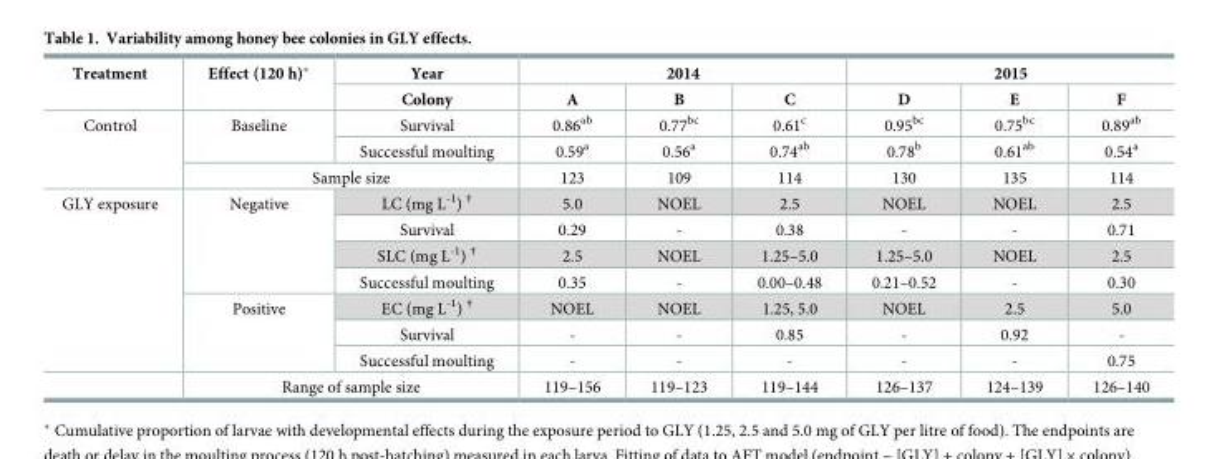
<table><thead><tr><td rowspan="2">Treatment</td><td rowspan="2">Effect (120 h)*</td><td rowspan="2">Year Colony</td><td colspan="3">2014</td><td colspan="3">2015</td></tr><tr><td>A</td><td>B</td><td>C</td><td>D</td><td>E</td><td>F</td></tr></thead><tbody><tr><td rowspan="3">Control</td><td rowspan="2">Baseline</td><td>Survival</td><td>0.86<sup>ab</sup></td><td>0.77<sup>bc</sup></td><td>0.61<sup>c</sup></td><td>0.95<sup>bc</sup></td><td>0.75<sup>bc</sup></td><td>0.89<sup>ab</sup></td></tr><tr><td>Successful moulting</td><td>0.59<sup>a</sup></td><td>0.56<sup>a</sup></td><td>0.74<sup>ab</sup></td><td>0.78<sup>b</sup></td><td>0.61<sup>ab</sup></td><td>0.54<sup>a</sup></td></tr><tr><td colspan="2">Sample size</td><td>123</td><td>109</td><td>114</td><td>130</td><td>135</td><td>114</td></tr><tr><td rowspan="8">GLY exposure</td><td rowspan="4">Negative</td><td>LC (mg L<sup>-1</sup>) <sup>†</sup></td><td>5.0</td><td>NOEL</td><td>2.5</td><td>NOEL</td><td>NOEL</td><td>2.5</td></tr><tr><td>Survival</td><td>0.29</td><td>-</td><td>0.38</td><td>-</td><td>-</td><td>0.71</td></tr><tr><td>SLC (mg L<sup>-1</sup>) <sup>†</sup></td><td>2.5</td><td>NOEL</td><td>1.25–5.0</td><td>1.25–5.0</td><td>NOEL</td><td>2.5</td></tr><tr><td>Successful moulting</td><td>0.35</td><td>-</td><td>0.00–0.48</td><td>0.21–0.52</td><td>-</td><td>0.30</td></tr><tr><td rowspan="3">Positive</td><td>EC (mg L<sup>-1</sup>) <sup>†</sup></td><td>NOEL</td><td>NOEL</td><td>1.25, 5.0</td><td>NOEL</td><td>2.5</td><td>5.0</td></tr><tr><td>Survival</td><td>-</td><td>-</td><td>0.85</td><td>-</td><td>0.92</td><td>-</td></tr><tr><td>Successful moulting</td><td>-</td><td>-</td><td>-</td><td>-</td><td>-</td><td>0.75</td></tr><tr><td colspan="2">Range of sample size</td><td>119–156</td><td>119–123</td><td>119–144</td><td>126–137</td><td>124–139</td><td>126–140</td></tr></tbody></table>